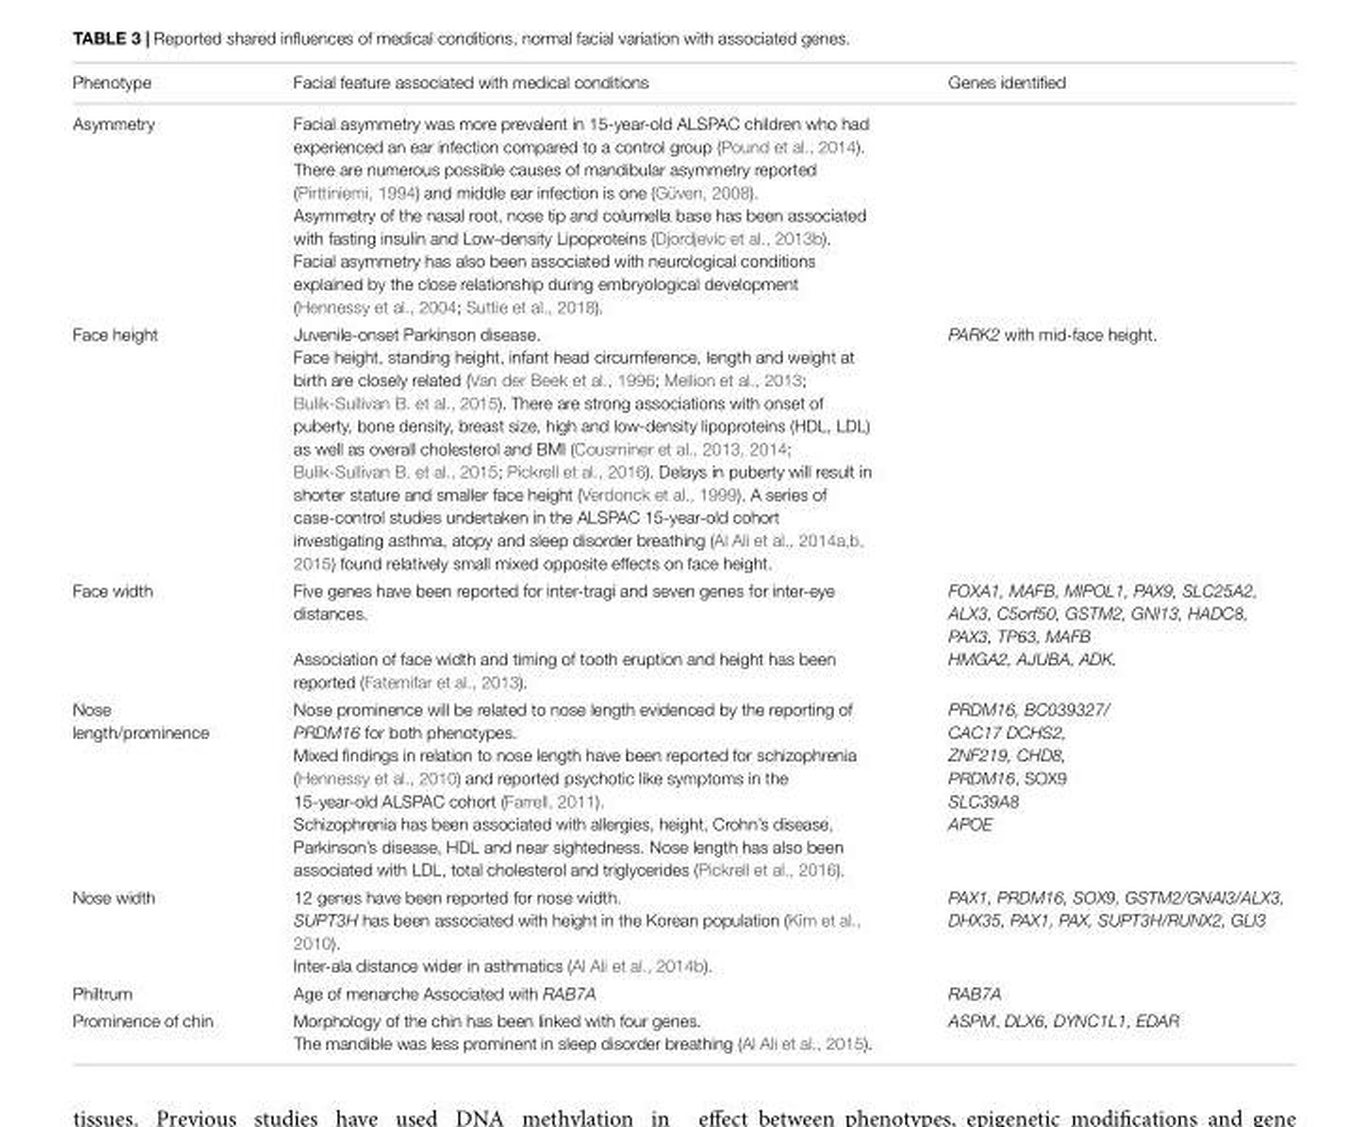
<table><thead><tr><td>Phenotype</td><td>Facial feature associated with medical conditions</td><td>Genes identified</td></tr></thead><tbody><tr><td>Asymmetry</td><td>Facial asymmetry was more prevalent in 15-year-old ALSPAC children who had experienced an ear infection compared to a control group (Pound et al., 2014). There are numerous possible causes of mandibular asymmetry reported (Pirttiniemi, 1994) and middle ear infection is one (Güven, 2008). Asymmetry of the nasal root, nose tip and columella base has been associated with fasting insulin and Low-density Lipoproteins (Djordjevic et al., 2013b). Facial asymmetry has also been associated with neurological conditions explained by the close relationship during embryological development (Hennessy et al., 2004; Suttie et al., 2018).</td><td></td></tr><tr><td>Face height</td><td>Juvenile-onset Parkinson disease. Face height, standing height, infant head circumference, length and weight at birth are closely related (Van der Beek et al., 1996; Mellion et al., 2013; Bulik-Sullivan B. et al., 2015). There are strong associations with onset of puberty, bone density, breast size, high and low-density lipoproteins (HDL, LDL) as well as overall cholesterol and BMI (Cousminer et al., 2013, 2014; Bulik-Sullivan B. et al., 2015; Pickrell et al., 2016). Delays in puberty will result in shorter stature and smaller face height (Verdonck et al., 1999). A series of case-control studies undertaken in the ALSPAC 15-year-old cohort investigating asthma, atopy and sleep disorder breathing (Al Ali et al., 2014a,b, 2015) found relatively small mixed opposite effects on face height.</td><td>PARK2 with mid-face height.</td></tr><tr><td>Face width</td><td>Five genes have been reported for inter-tragi and seven genes for inter-eye distances. Association of face width and timing of tooth eruption and height has been reported (Fatemifar et al., 2013).</td><td>FOXA1, MAFB, MIPOL1, PAX9, SLC25A2, ALX3, C5orf50, GSTM2, GNI13, HADC8, PAX3, TP63, MAFB HMGA2, AJUBA, ADK.</td></tr><tr><td>Nose length/prominence</td><td>Nose prominence will be related to nose length evidenced by the reporting of PRDM16 for both phenotypes. Mixed findings in relation to nose length have been reported for schizophrenia (Hennessy et al., 2010) and reported psychotic like symptoms in the 15-year-old ALSPAC cohort (Farrell, 2011). Schizophrenia has been associated with allergies, height, Crohn’s disease, Parkinson’s disease, HDL and near sightedness. Nose length has also been associated with LDL, total cholesterol and triglycerides (Pickrell et al., 2016).</td><td>PRDM16, BC039327/ CAC17 DCHS2, ZNF219, CHD8, PRDM16, SOX9 SLC39A8 APOE</td></tr><tr><td>Nose width</td><td>12 genes have been reported for nose width. SUPT3H has been associated with height in the Korean population (Kim et al., 2010). Inter-ala distance wider in asthmatics (Al Ali et al., 2014b).</td><td>PAX1, PRDM16, SOX9, GSTM2/GNAI3/ALX3, DHX35, PAX1, PAX, SUPT3H/RUNX2, GLI3</td></tr><tr><td>Philtrum</td><td>Age of menarche Associated with RAB7A</td><td>RAB7A</td></tr><tr><td>Prominence of chin</td><td>Morphology of the chin has been linked with four genes. The mandible was less prominent in sleep disorder breathing (Al Ali et al., 2015).</td><td>ASPM, DLX6, DYNC1L1, EDAR</td></tr></tbody></table>